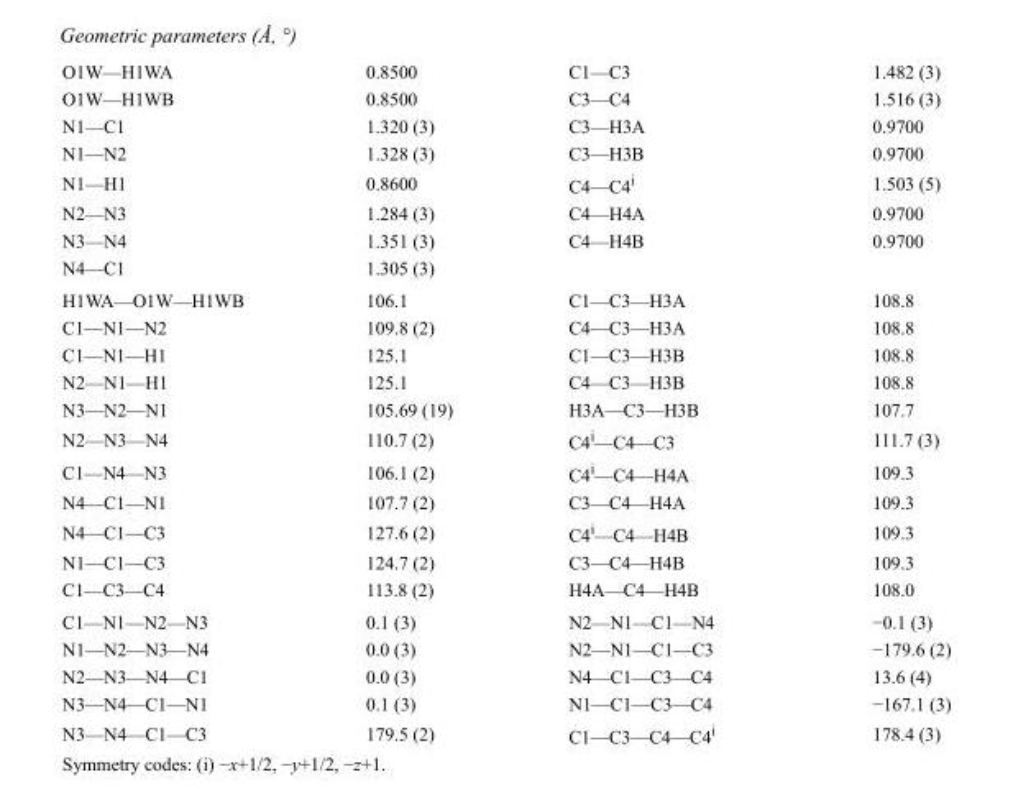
<table><tbody><tr><td>O1W—H1WA</td><td>0.8500</td><td>C1—C3</td><td>1.482 (3)</td></tr><tr><td>O1W—H1WB</td><td>0.8500</td><td>C3—C4</td><td>1.516 (3)</td></tr><tr><td>N1—C1</td><td>1.320 (3)</td><td>C3—H3A</td><td>0.9700</td></tr><tr><td>N1—N2</td><td>1.328 (3)</td><td>C3—H3B</td><td>0.9700</td></tr><tr><td>N1—H1</td><td>0.8600</td><td>C4—C4<sup>i</sup></td><td>1.503 (5)</td></tr><tr><td>N2—N3</td><td>1.284 (3)</td><td>C4—H4A</td><td>0.9700</td></tr><tr><td>N3—N4</td><td>1.351 (3)</td><td>C4—H4B</td><td>0.9700</td></tr><tr><td>N4—C1</td><td>1.305 (3)</td><td></td><td></td></tr><tr><td>H1WA—O1W—H1WB</td><td>106.1</td><td>C1—C3—H3A</td><td>108.8</td></tr><tr><td>C1—N1—N2</td><td>109.8 (2)</td><td>C4—C3—H3A</td><td>108.8</td></tr><tr><td>C1—N1—H1</td><td>125.1</td><td>C1—C3—H3B</td><td>108.8</td></tr><tr><td>N2—N1—H1</td><td>125.1</td><td>C4—C3—H3B</td><td>108.8</td></tr><tr><td>N3—N2—N1</td><td>105.69 (19)</td><td>H3A—C3—H3B</td><td>107.7</td></tr><tr><td>N2—N3—N4</td><td>110.7 (2)</td><td>C4<sup>i</sup>—C4—C3</td><td>111.7 (3)</td></tr><tr><td>C1—N4—N3</td><td>106.1 (2)</td><td>C4<sup>i</sup>—C4—H4A</td><td>109.3</td></tr><tr><td>N4—C1—N1</td><td>107.7 (2)</td><td>C3—C4—H4A</td><td>109.3</td></tr><tr><td>N4—C1—C3</td><td>127.6 (2)</td><td>C4<sup>i</sup>—C4—H4B</td><td>109.3</td></tr><tr><td>N1—C1—C3</td><td>124.7 (2)</td><td>C3—C4—H4B</td><td>109.3</td></tr><tr><td>C1—C3—C4</td><td>113.8 (2)</td><td>H4A—C4—H4B</td><td>108.0</td></tr><tr><td>C1—N1—N2—N3</td><td>0.1 (3)</td><td>N2—N1—C1—N4</td><td>−0.1 (3)</td></tr><tr><td>N1—N2—N3—N4</td><td>0.0 (3)</td><td>N2—N1—C1—C3</td><td>−179.6 (2)</td></tr><tr><td>N2—N3—N4—C1</td><td>0.0 (3)</td><td>N4—C1—C3—C4</td><td>13.6 (4)</td></tr><tr><td>N3—N4—C1—N1</td><td>0.1 (3)</td><td>N1—C1—C3—C4</td><td>−167.1 (3)</td></tr><tr><td>N3—N4—C1—C3</td><td>179.5 (2)</td><td>C1—C3—C4—C4<sup>i</sup></td><td>178.4 (3)</td></tr></tbody></table>